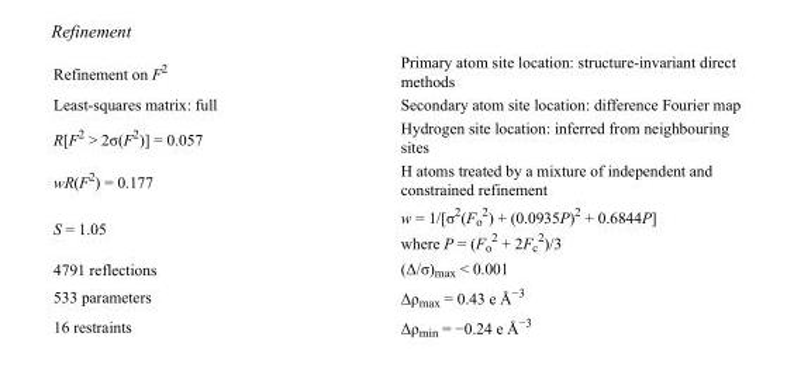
<table><tbody><tr><td>Refinement on F<sup>2</sup></td><td>Primary atom site location: structure-invariant direct methods</td></tr><tr><td>Least-squares matrix: full</td><td>Secondary atom site location: difference Fourier map</td></tr><tr><td>R[F<sup>2</sup> &gt; 2σ(F<sup>2</sup>)] = 0.057</td><td>Hydrogen site location: inferred from neighbouring sites</td></tr><tr><td>wR(F<sup>2</sup>) = 0.177</td><td>H atoms treated by a mixture of independent and constrained refinement</td></tr><tr><td>S = 1.05</td><td>w = 1/[σ<sup>2</sup>(F<sub>o</sub> <sup>2</sup>) + (0.0935P)<sup>2</sup> + 0.6844P] where P = (F<sub>o</sub> <sup>2</sup> + 2F<sub>c</sub> <sup>2</sup>)/3</td></tr><tr><td>4791 reflections</td><td>(Δ/σ)<sub>max</sub> &lt; 0.001</td></tr><tr><td>533 parameters</td><td>Δρ<sub>max</sub> = 0.43 e Å<sup>−3</sup></td></tr><tr><td>16 restraints</td><td>Δρ<sub>min</sub> = −0.24 e Å<sup>−3</sup></td></tr></tbody></table>